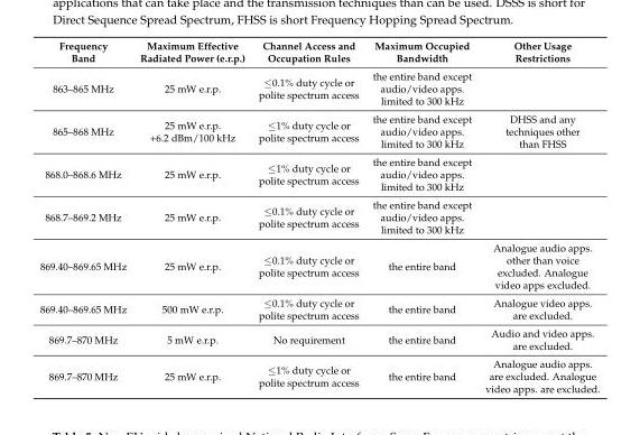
<table><thead><tr><td>Frequency Band</td><td>Maximum Effective Radiated Power (e.r.p.)</td><td>Channel Access and Occupation Rules</td><td>Maximum Occupied Bandwidth</td><td>Other Usage Restrictions</td></tr></thead><tbody><tr><td>863–865 MHz</td><td>25 mW e.r.p.</td><td>≤0.1% duty cycle or polite spectrum access</td><td>the entire band except audio/video apps. limited to 300 kHz</td><td></td></tr><tr><td>865–868 MHz</td><td>25 mW e.r.p. +6.2 dBm/100 kHz</td><td>≤1% duty cycle or polite spectrum access</td><td>the entire band except audio/video apps. limited to 300 kHz</td><td>DHSS and any techniques other than FHSS</td></tr><tr><td>868.0–868.6 MHz</td><td>25 mW e.r.p.</td><td>≤1% duty cycle or polite spectrum access</td><td>the entire band except audio/video apps. limited to 300 kHz</td><td></td></tr><tr><td>868.7–869.2 MHz</td><td>25 mW e.r.p.</td><td>≤0.1% duty cycle or polite spectrum access</td><td>the entire band except audio/video apps. limited to 300 kHz</td><td></td></tr><tr><td>869.40–869.65 MHz</td><td>25 mW e.r.p.</td><td>≤0.1% duty cycle or polite spectrum access</td><td>the entire band</td><td>Analogue audio apps. other than voice excluded. Analogue video apps excluded.</td></tr><tr><td>869.40–869.65 MHz</td><td>500 mW e.r.p.</td><td>≤0.1% duty cycle or polite spectrum access</td><td>the entire band</td><td>Analogue video apps. are excluded.</td></tr><tr><td>869.7–870 MHz</td><td>5 mW e.r.p.</td><td>No requirement</td><td>the entire band</td><td>Audio and video apps. are excluded.</td></tr><tr><td>869.7–870 MHz</td><td>25 mW e.r.p.</td><td>≤1% duty cycle or polite spectrum access</td><td>the entire band</td><td>Analogue audio apps. are excluded. Analogue video apps. are excluded.</td></tr></tbody></table>